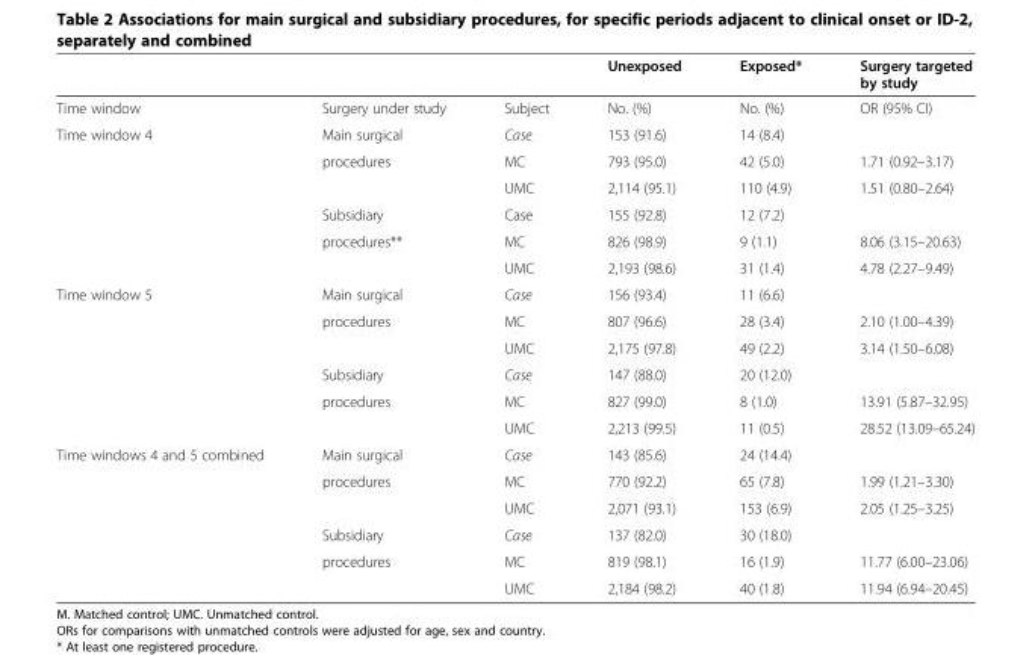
<table><thead><tr><td></td><td></td><td></td><td>Unexposed</td><td>Exposed*</td><td>Surgery targeted by study</td></tr></thead><tbody><tr><td>Time window</td><td>Surgery under study</td><td>Subject</td><td>No. (%)</td><td>No. (%)</td><td>OR (95% CI)</td></tr><tr><td rowspan="6">Time window 4</td><td>Main surgical</td><td>Case</td><td>153 (91.6)</td><td>14 (8.4)</td><td></td></tr><tr><td>procedures</td><td>MC</td><td>793 (95.0)</td><td>42 (5.0)</td><td>1.71 (0.92–3.17)</td></tr><tr><td></td><td>UMC</td><td>2,114 (95.1)</td><td>110 (4.9)</td><td>1.51 (0.80–2.64)</td></tr><tr><td>Subsidiary</td><td>Case</td><td>155 (92.8)</td><td>12 (7.2)</td><td></td></tr><tr><td>procedures**</td><td>MC</td><td>826 (98.9)</td><td>9 (1.1)</td><td>8.06 (3.15–20.63)</td></tr><tr><td></td><td>UMC</td><td>2,193 (98.6)</td><td>31 (1.4)</td><td>4.78 (2.27–9.49)</td></tr><tr><td rowspan="6">Time window 5</td><td>Main surgical</td><td>Case</td><td>156 (93.4)</td><td>11 (6.6)</td><td></td></tr><tr><td>procedures</td><td>MC</td><td>807 (96.6)</td><td>28 (3.4)</td><td>2.10 (1.00–4.39)</td></tr><tr><td></td><td>UMC</td><td>2,175 (97.8)</td><td>49 (2.2)</td><td>3.14 (1.50–6.08)</td></tr><tr><td>Subsidiary</td><td>Case</td><td>147 (88.0)</td><td>20 (12.0)</td><td></td></tr><tr><td>procedures</td><td>MC</td><td>827 (99.0)</td><td>8 (1.0)</td><td>13.91 (5.87–32.95)</td></tr><tr><td></td><td>UMC</td><td>2,213 (99.5)</td><td>11 (0.5)</td><td>28.52 (13.09–65.24)</td></tr><tr><td rowspan="6">Time windows 4 and 5 combined</td><td>Main surgical</td><td>Case</td><td>143 (85.6)</td><td>24 (14.4)</td><td></td></tr><tr><td>procedures</td><td>MC</td><td>770 (92.2)</td><td>65 (7.8)</td><td>1.99 (1.21–3.30)</td></tr><tr><td></td><td>UMC</td><td>2,071 (93.1)</td><td>153 (6.9)</td><td>2.05 (1.25–3.25)</td></tr><tr><td>Subsidiary</td><td>Case</td><td>137 (82.0)</td><td>30 (18.0)</td><td></td></tr><tr><td>procedures</td><td>MC</td><td>819 (98.1)</td><td>16 (1.9)</td><td>11.77 (6.00–23.06)</td></tr><tr><td></td><td>UMC</td><td>2,184 (98.2)</td><td>40 (1.8)</td><td>11.94 (6.94–20.45)</td></tr></tbody></table>